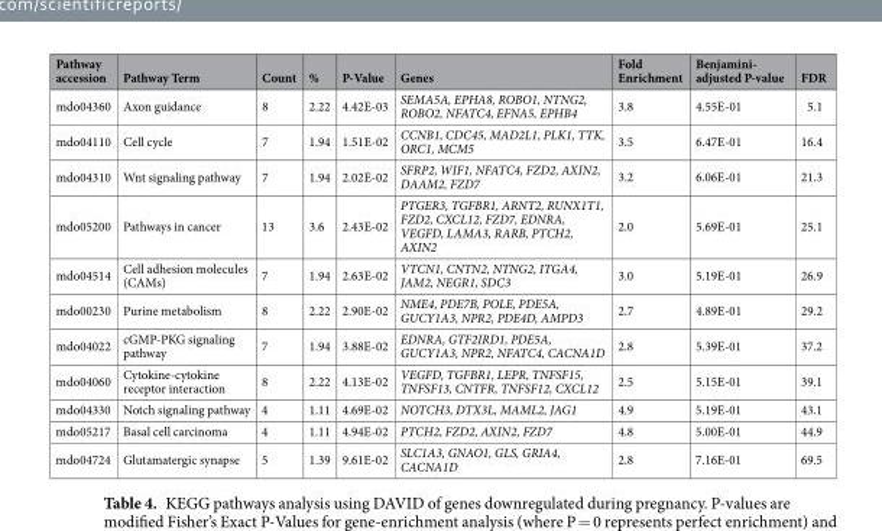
<table><thead><tr><td>Pathway accession</td><td>Pathway Term</td><td>Count</td><td>%</td><td>P-Value</td><td>Genes</td><td>Fold Enrichment</td><td>Benjamini- adjusted P-value</td><td>FDR</td></tr></thead><tbody><tr><td>mdo04360</td><td>Axon guidance</td><td>8</td><td>2.22</td><td>4.42E-03</td><td>SEMA5A, EPHA8, ROBO1, NTNG2, ROBO2, NFATC4, EFNA5, EPHB4</td><td>3.8</td><td>4.55E-01</td><td>5.1</td></tr><tr><td>mdo04110</td><td>Cell cycle</td><td>7</td><td>1.94</td><td>1.51E-02</td><td>CCNB1, CDC45, MAD2L1, PLK1, TTK, ORC1, MCM5</td><td>3.5</td><td>6.47E-01</td><td>16.4</td></tr><tr><td>mdo04310</td><td>Wnt signaling pathway</td><td>7</td><td>1.94</td><td>2.02E-02</td><td>SFRP2, WIF1, NFATC4, FZD2, AXIN2, DAAM2, FZD7</td><td>3.2</td><td>6.06E-01</td><td>21.3</td></tr><tr><td>mdo05200</td><td>Pathways in cancer</td><td>13</td><td>3.6</td><td>2.43E-02</td><td>PTGER3, TGFBR1, ARNT2, RUNX1T1, FZD2, CXCL12, FZD7, EDNRA, VEGFD, LAMA3, RARB, PTCH2, AXIN2</td><td>2.0</td><td>5.69E-01</td><td>25.1</td></tr><tr><td>mdo04514</td><td>Cell adhesion molecules (CAMs)</td><td>7</td><td>1.94</td><td>2.63E-02</td><td>VTCN1, CNTN2, NTNG2, ITGA4, JAM2, NEGR1, SDC3</td><td>3.0</td><td>5.19E-01</td><td>26.9</td></tr><tr><td>mdo00230</td><td>Purine metabolism</td><td>8</td><td>2.22</td><td>2.90E-02</td><td>NME4, PDE7B, POLE, PDE5A, GUCY1A3, NPR2, PDE4D, AMPD3</td><td>2.7</td><td>4.89E-01</td><td>29.2</td></tr><tr><td>mdo04022</td><td>cGMP-PKG signaling pathway</td><td>7</td><td>1.94</td><td>3.88E-02</td><td>EDNRA, GTF2IRD1, PDE5A, GUCY1A3, NPR2, NFATC4, CACNA1D</td><td>2.8</td><td>5.39E-01</td><td>37.2</td></tr><tr><td>mdo04060</td><td>Cytokine-cytokine receptor interaction</td><td>8</td><td>2.22</td><td>4.13E-02</td><td>VEGFD, TGFBR1, LEPR, TNFSF15, TNFSF13, CNTFR, TNFSF12, CXCL12</td><td>2.5</td><td>5.15E-01</td><td>39.1</td></tr><tr><td>mdo04330</td><td>Notch signaling pathway</td><td>4</td><td>1.11</td><td>4.69E-02</td><td>NOTCH3, DTX3L, MAML2, JAG1</td><td>4.9</td><td>5.19E-01</td><td>43.1</td></tr><tr><td>mdo05217</td><td>Basal cell carcinoma</td><td>4</td><td>1.11</td><td>4.94E-02</td><td>PTCH2, FZD2, AXIN2, FZD7</td><td>4.8</td><td>5.00E-01</td><td>44.9</td></tr><tr><td>mdo04724</td><td>Glutamatergic synapse</td><td>5</td><td>1.39</td><td>9.61E-02</td><td>SLC1A3, GNAO1, GLS, GRIA4, CACNA1D</td><td>2.8</td><td>7.16E-01</td><td>69.5</td></tr></tbody></table>